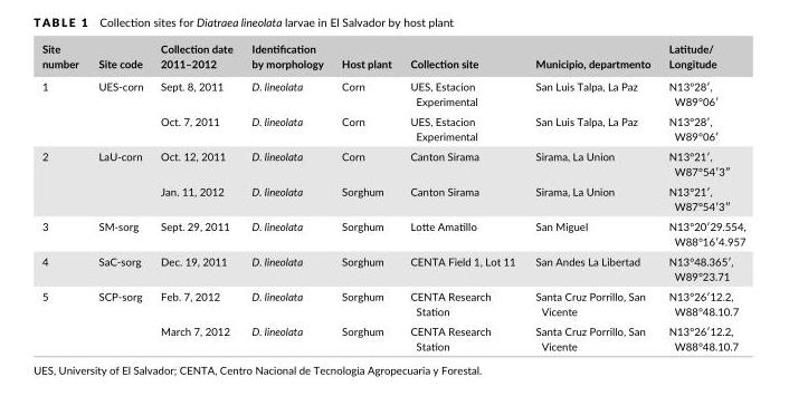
<table><thead><tr><td>Site number</td><td>Site code</td><td>Collection date 2011–2012</td><td>Identification by morphology</td><td>Host plant</td><td>Collection site</td><td>Municipio, departmento</td><td>Latitude/ Longitude</td></tr></thead><tbody><tr><td rowspan="2">1</td><td rowspan="2">UES- corn</td><td>Sept. 8, 2011</td><td>D. lineolata</td><td>Corn</td><td>UES, Estacion Experimental</td><td>San Luis Talpa, La Paz</td><td>N13°28′, W89°06′</td></tr><tr><td>Oct. 7, 2011</td><td>D. lineolata</td><td>Corn</td><td>UES, Estacion Experimental</td><td>San Luis Talpa, La Paz</td><td>N13°28′, W89°06′</td></tr><tr><td rowspan="2">2</td><td rowspan="2">LaU- corn</td><td>Oct. 12, 2011</td><td>D. lineolata</td><td>Corn</td><td>Canton Sirama</td><td>Sirama, La Union</td><td>N13°21′, W87°54′3″</td></tr><tr><td>Jan. 11, 2012</td><td>D. lineolata</td><td>Sorghum</td><td>Canton Sirama</td><td>Sirama, La Union</td><td>N13°21′, W87°54′3″</td></tr><tr><td>3</td><td>SM- sorg</td><td>Sept. 29, 2011</td><td>D. lineolata</td><td>Sorghum</td><td>Lotte Amatillo</td><td>San Miguel</td><td>N13°20′29.554, W88°16′4.957</td></tr><tr><td>4</td><td>SaC- sorg</td><td>Dec. 19, 2011</td><td>D. lineolata</td><td>Sorghum</td><td>CENTA Field 1, Lot 11</td><td>San Andes La Libertad</td><td>N13°48.365′, W89°23.71</td></tr><tr><td rowspan="2">5</td><td rowspan="2">SCP- sorg</td><td>Feb. 7, 2012</td><td>D. lineolata</td><td>Sorghum</td><td>CENTA Research Station</td><td>Santa Cruz Porrillo, San Vicente</td><td>N13°26′12.2, W88°48.10.7</td></tr><tr><td>March 7, 2012</td><td>D. lineolata</td><td>Sorghum</td><td>CENTA Research Station</td><td>Santa Cruz Porrillo, San Vicente</td><td>N13°26′12.2, W88°48.10.7</td></tr></tbody></table>